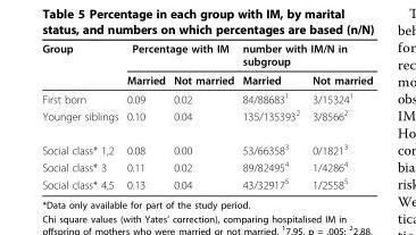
<table><thead><tr><td rowspan="2">Group</td><td colspan="2">Percentage with IM</td><td colspan="2">number with IM/N in subgroup</td></tr><tr><td>Married</td><td>Not married</td><td>Married</td><td>Not married</td></tr></thead><tbody><tr><td>First born</td><td>0.09</td><td>0.02</td><td>84/88683<sup>1</sup></td><td>3/15324<sup>1</sup></td></tr><tr><td>Younger siblings</td><td>0.10</td><td>0.04</td><td>135/135393<sup>2</sup></td><td>3/8566<sup>2</sup></td></tr><tr><td>Social class* 1,2</td><td>0.08</td><td>0.00</td><td>53/66358<sup>3</sup></td><td>0/1821<sup>3</sup></td></tr><tr><td>Social class* 3</td><td>0.11</td><td>0.02</td><td>89/82495<sup>4</sup></td><td>1/4286<sup>4</sup></td></tr><tr><td>Social class* 4,5</td><td>0.13</td><td>0.04</td><td>43/32917<sup>5</sup></td><td>1/2558<sup>5</sup></td></tr></tbody></table>